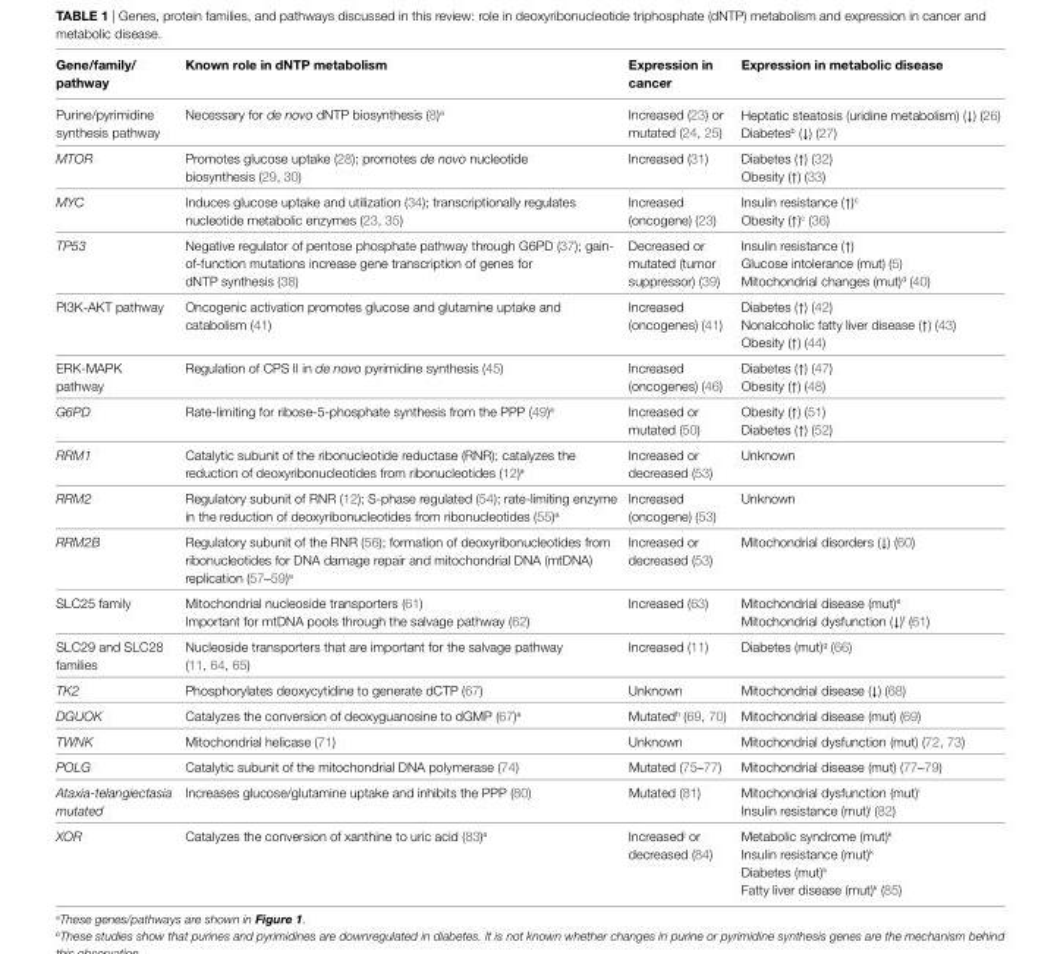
<table><thead><tr><td>Gene/family/ pathway</td><td>Known role in dnTP metabolism</td><td>expression in cancer</td><td>expression in metabolic disease</td></tr></thead><tbody><tr><td>Purine/pyrimidine synthesis pathway</td><td>Necessary for de novo dNTP biosynthesis (8)<sup>a</sup></td><td>Increased (23) or mutated (24, 25)</td><td>Heptatic steatosis (uridine metabolism) (↓) (26) Diabetes<sup>b</sup> (↓) (27)</td></tr><tr><td>MTOR</td><td>Promotes glucose uptake (28); promotes de novo nucleotide biosynthesis (29, 30)</td><td>Increased (31)</td><td>Diabetes (↑) (32) Obesity (↑) (33)</td></tr><tr><td>MYC</td><td>Induces glucose uptake and utilization (34); transcriptionally regulates nucleotide metabolic enzymes (23, 35)</td><td>Increased (oncogene) (23)</td><td>Insulin resistance (↑)<sup>c</sup> Obesity (↑)<sup>c</sup> (36)</td></tr><tr><td>TP53</td><td>Negative regulator of pentose phosphate pathway through G6PD (37); gain offunction mutations increase gene transcription of genes for dNTP synthesis (38)</td><td>Decreased or mutated (tumor suppressor) (39)</td><td>Insulin resistance (↑) Glucose intolerance (mut) (5) Mitochondrial changes (mut)<sup>d</sup> (40)</td></tr><tr><td>PI3KAKT pathway</td><td>Oncogenic activation promotes glucose and glutamine uptake and catabolism (41)</td><td>Increased (oncogenes) (41)</td><td>Diabetes (↑) (42) Nonalcoholic fatty liver disease (↑) (43) Obesity (↑) (44)</td></tr><tr><td>ERKMAPK pathway</td><td>Regulation of CPS II in de novo pyrimidine synthesis (45)</td><td>Increased (oncogenes) (46)</td><td>Diabetes (↑) (47) Obesity (↑) (48)</td></tr><tr><td>G6PD</td><td>Ratelimiting for ribose5phosphate synthesis from the PPP (49)a</td><td>Increased or mutated (50)</td><td>Obesity (↑) (51) Diabetes (↑) (52)</td></tr><tr><td>RRM1</td><td>Catalytic subunit of the ribonucleotide reductase (RNR); catalyzes the reduction of deoxyribonucleotides from ribonucleotides (12)<sup>a</sup></td><td>Increased or decreased (53)</td><td>Unknown</td></tr><tr><td>RRM2</td><td>Regulatory subunit of RNR (12); Sphase regulated (54); ratelimiting enzyme in the reduction of deoxyribonucleotides from ribonucleotides (55)a</td><td>Increased (oncogene) (53)</td><td>Unknown</td></tr><tr><td>RRM2B</td><td>Regulatory subunit of the RNR (56); formation of deoxyribonucleotides from ribonucleotides for DNA damage repair and mitochondrial DNA (mtDNA) replication (57–59)<sup>a</sup></td><td>Increased or decreased (53)</td><td>Mitochondrial disorders (↓) (60)</td></tr><tr><td>SLC25 family</td><td>Mitochondrial nucleoside transporters (61) Important for mtDNA pools through the salvage pathway (62)</td><td>Increased (63)</td><td>Mitochondrial disease (mut)<sup>e</sup> Mitochondrial dysfunction (↓)<sup>f</sup> (61)</td></tr><tr><td>SLC29 and SLC28 families</td><td>Nucleoside transporters that are important for the salvage pathway (11, 64, 65)</td><td>Increased (11)</td><td>Diabetes (mut)<sup>g</sup> (66)</td></tr><tr><td>TK2</td><td>Phosphorylates deoxycytidine to generate dCTP (67)</td><td>Unknown</td><td>Mitochondrial disease (↓) (68)</td></tr><tr><td>DGUOK</td><td>Catalyzes the conversion of deoxyguanosine to dGMP (67)<sup>a</sup></td><td>Mutated<sup>h</sup> (69, 70)</td><td>Mitochondrial disease (mut) (69)</td></tr><tr><td>TWNK</td><td>Mitochondrial helicase (71)</td><td>Unknown</td><td>Mitochondrial dysfunction (mut) (72, 73)</td></tr><tr><td>POLG</td><td>Catalytic subunit of the mitochondrial DNA polymerase (74)</td><td>Mutated (75–77)</td><td>Mitochondrial disease (mut) (77–79)</td></tr><tr><td>Ataxia-telangiectasia mutated</td><td>Increases glucose/glutamine uptake and inhibits the PPP (80)</td><td>Mutated (81)</td><td>Mitochondrial dysfunction (mut)<sup>i</sup> Insulin resistance (mut)<sup>i</sup> (82)</td></tr><tr><td>XOR</td><td>Catalyzes the conversion of xanthine to uric acid (83)<sup>a</sup></td><td>Increased<sup>j</sup> or decreased (84)</td><td>Metabolic syndrome (mut)<sup>k</sup> Insulin resistance (mut)<sup>k</sup> Diabetes (mut)<sup>k</sup> Fatty liver disease (mut)<sup>k</sup> (85)</td></tr></tbody></table>